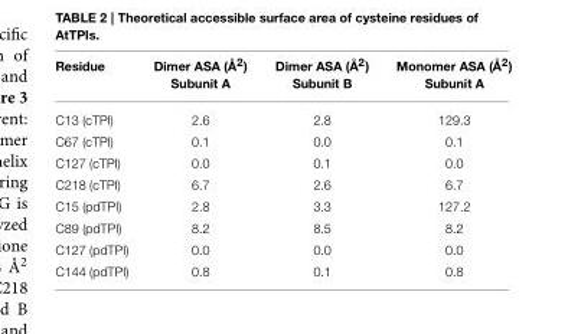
<table><thead><tr><td>Residue</td><td>Dimer ASA (Å<sup>2</sup>) Subunit A</td><td>Dimer ASA (Å<sup>2</sup>) Subunit B</td><td>Monomer ASA (Å<sup>2</sup>) Subunit A</td></tr></thead><tbody><tr><td>C13 (cTPI)</td><td>2.6</td><td>2.8</td><td>129.3</td></tr><tr><td>C67 (cTPI)</td><td>0.1</td><td>0.0</td><td>0.1</td></tr><tr><td>C127 (cTPI)</td><td>0.0</td><td>0.1</td><td>0.0</td></tr><tr><td>C218 (cTPI)</td><td>6.7</td><td>2.6</td><td>6.7</td></tr><tr><td>C15 (pdTPI)</td><td>2.8</td><td>3.3</td><td>127.2</td></tr><tr><td>C89 (pdTPI)</td><td>8.2</td><td>8.5</td><td>8.2</td></tr><tr><td>C127 (pdTPI)</td><td>0.0</td><td>0.0</td><td>0.0</td></tr><tr><td>C144 (pdTPI)</td><td>0.8</td><td>0.1</td><td>0.8</td></tr></tbody></table>